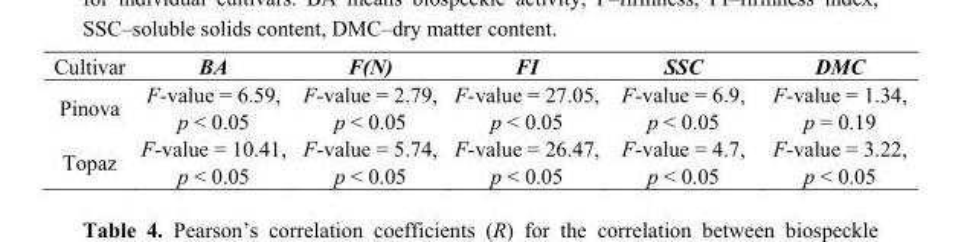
<table><thead><tr><td>Cultivar</td><td>BA</td><td>F(N)</td><td>FI</td><td>SSC</td><td>DMC</td></tr></thead><tbody><tr><td>Pinova</td><td>F-value = 6.59, p &lt; 0.05</td><td>F-value = 2.79, p &lt; 0.05</td><td>F-value = 27.05, p &lt; 0.05</td><td>F-value = 6.9, p &lt; 0.05</td><td>F-value = 1.34, p = 0.19</td></tr><tr><td>Topaz</td><td>F-value = 10.41, p &lt; 0.05</td><td>F-value = 5.74, p &lt; 0.05</td><td>F-value = 26.47, p &lt; 0.05</td><td>F-value = 4.7, p &lt; 0.05</td><td>F-value = 3.22, p &lt; 0.05</td></tr></tbody></table>